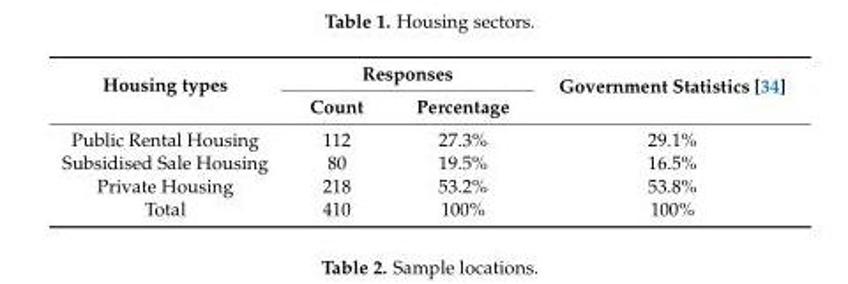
<table><thead><tr><td rowspan="2">Housing types</td><td colspan="2">Responses</td><td rowspan="2">Government Statistics [34]</td></tr><tr><td>Count</td><td>Percentage</td></tr></thead><tbody><tr><td>Public Rental Housing</td><td>112</td><td>27.3%</td><td>29.1%</td></tr><tr><td>Subsidised Sale Housing</td><td>80</td><td>19.5%</td><td>16.5%</td></tr><tr><td>Private Housing</td><td>218</td><td>53.2%</td><td>53.8%</td></tr><tr><td>Total</td><td>410</td><td>100%</td><td>100%</td></tr></tbody></table>